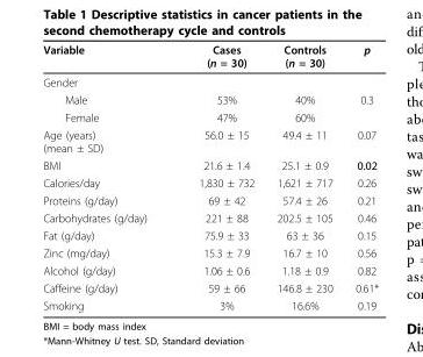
<table><thead><tr><td>Variable</td><td>Cases (n = 30)</td><td>Controls (n = 30)</td><td>p</td></tr></thead><tbody><tr><td colspan="4">Gender</td></tr><tr><td>Male</td><td>53%</td><td>40%</td><td>0.3</td></tr><tr><td>Female</td><td>47%</td><td>60%</td><td></td></tr><tr><td>Age (years) (mean ± SD)</td><td>56.0 ± 15</td><td>49.4 ± 11</td><td>0.07</td></tr><tr><td>BMI</td><td>21.6 ± 1.4</td><td>25.1 ± 0.9</td><td>0.02</td></tr><tr><td>Calories/day</td><td>1,830 ± 732</td><td>1,621 ± 717</td><td>0.26</td></tr><tr><td>Proteins (g/day)</td><td>69 ± 42</td><td>57.4 ± 26</td><td>0.21</td></tr><tr><td>Carbohydrates (g/day)</td><td>221 ± 88</td><td>202.5 ± 105</td><td>0.46</td></tr><tr><td>Fat (g/day)</td><td>75.9 ± 33</td><td>63 ± 36</td><td>0.15</td></tr><tr><td>Zinc (mg/day)</td><td>15.3 ± 7.9</td><td>16.7 ± 10</td><td>0.56</td></tr><tr><td>Alcohol (g/day)</td><td>1.06 ± 0.6</td><td>1.18 ± 0.9</td><td>0.82</td></tr><tr><td>Caffeine (g/day)</td><td>59 ± 66</td><td>146.8 ± 230</td><td>0.61*</td></tr><tr><td>Smoking</td><td>3%</td><td>16.6%</td><td>0.19</td></tr></tbody></table>